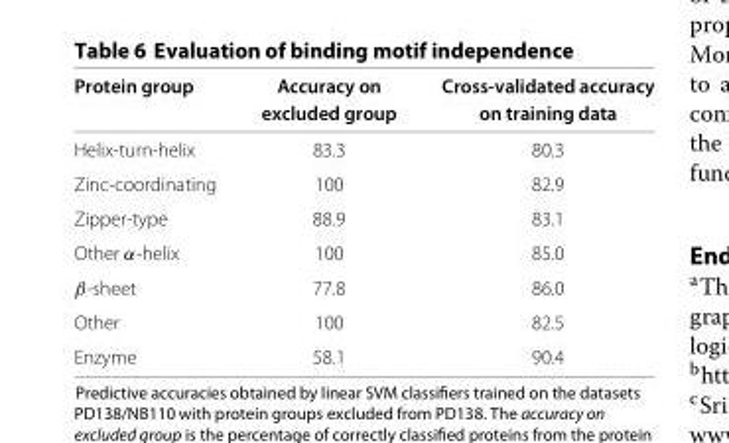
<table><thead><tr><td rowspan="2">Protein group</td><td rowspan="2">Accuracy on excluded group</td><td rowspan="2">Cross-validated accuracy on training data</td></tr><tr></tr></thead><tbody><tr><td>Helix-turn-helix</td><td>83.3</td><td>80.3</td></tr><tr><td>Zinc-coordinating</td><td>100</td><td>82.9</td></tr><tr><td>Zipper-type</td><td>88.9</td><td>83.1</td></tr><tr><td>Other α-helix</td><td>100</td><td>85.0</td></tr><tr><td>β-sheet</td><td>77.8</td><td>86.0</td></tr><tr><td>Other</td><td>100</td><td>82.5</td></tr><tr><td>Enzyme</td><td>58.1</td><td>90.4</td></tr></tbody></table>